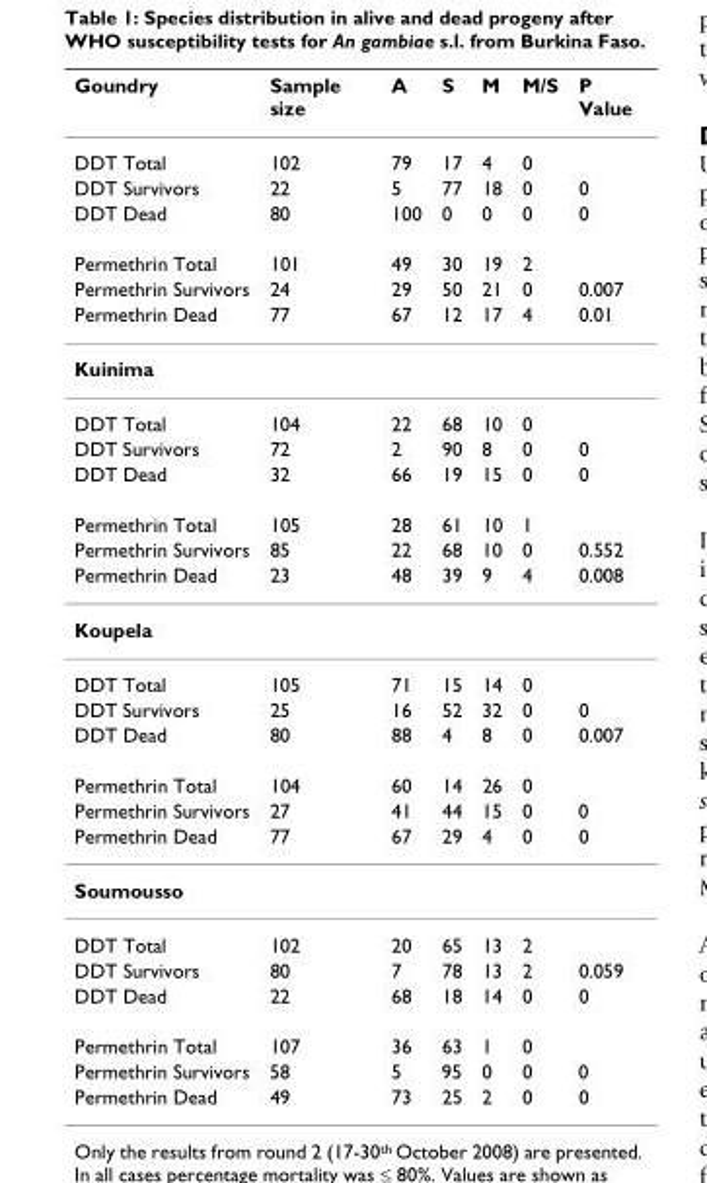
<table><thead><tr><td>Goundry</td><td>Sample size</td><td>A</td><td>S</td><td>M</td><td>M/S</td><td>P Value</td></tr></thead><tbody><tr><td>DDT Total</td><td>102</td><td>79</td><td>17</td><td>4</td><td>0</td><td></td></tr><tr><td>DDT Survivors</td><td>22</td><td>5</td><td>77</td><td>18</td><td>0</td><td>0</td></tr><tr><td>DDT Dead</td><td>80</td><td>100</td><td>0</td><td>0</td><td>0</td><td>0</td></tr><tr><td>Permethrin Total</td><td>101</td><td>49</td><td>30</td><td>19</td><td>2</td><td></td></tr><tr><td>Permethrin Survivors</td><td>24</td><td>29</td><td>50</td><td>21</td><td>0</td><td>0.007</td></tr><tr><td>Permethrin Dead</td><td>77</td><td>67</td><td>12</td><td>17</td><td>4</td><td>0.01</td></tr><tr><td colspan="7">Kuinima</td></tr><tr><td>DDT Total</td><td>104</td><td>22</td><td>68</td><td>10</td><td>0</td><td></td></tr><tr><td>DDT Survivors</td><td>72</td><td>2</td><td>90</td><td>8</td><td>0</td><td>0</td></tr><tr><td>DDT Dead</td><td>32</td><td>66</td><td>19</td><td>15</td><td>0</td><td>0</td></tr><tr><td>Permethrin Total</td><td>105</td><td>28</td><td>61</td><td>10</td><td>1</td><td></td></tr><tr><td>Permethrin Survivors</td><td>85</td><td>22</td><td>68</td><td>10</td><td>0</td><td>0.552</td></tr><tr><td>Permethrin Dead</td><td>23</td><td>48</td><td>39</td><td>9</td><td>4</td><td>0.008</td></tr><tr><td colspan="7">Koupela</td></tr><tr><td>DDT Total</td><td>105</td><td>71</td><td>15</td><td>14</td><td>0</td><td></td></tr><tr><td>DDT Survivors</td><td>25</td><td>16</td><td>52</td><td>32</td><td>0</td><td>0</td></tr><tr><td>DDT Dead</td><td>80</td><td>88</td><td>4</td><td>8</td><td>0</td><td>0.007</td></tr><tr><td>Permethrin Total</td><td>104</td><td>60</td><td>14</td><td>26</td><td>0</td><td></td></tr><tr><td>Permethrin Survivors</td><td>27</td><td>41</td><td>44</td><td>15</td><td>0</td><td>0</td></tr><tr><td>Permethrin Dead</td><td>77</td><td>67</td><td>29</td><td>4</td><td>0</td><td>0</td></tr><tr><td colspan="7">Soumousso</td></tr><tr><td>DDT Total</td><td>102</td><td>20</td><td>65</td><td>13</td><td>2</td><td></td></tr><tr><td>DDT Survivors</td><td>80</td><td>7</td><td>78</td><td>13</td><td>2</td><td>0.059</td></tr><tr><td>DDT Dead</td><td>22</td><td>68</td><td>18</td><td>14</td><td>0</td><td>0</td></tr><tr><td>Permethrin Total</td><td>107</td><td>36</td><td>63</td><td>1</td><td>0</td><td></td></tr><tr><td>Permethrin Survivors</td><td>58</td><td>5</td><td>95</td><td>0</td><td>0</td><td>0</td></tr><tr><td>Permethrin Dead</td><td>49</td><td>73</td><td>25</td><td>2</td><td>0</td><td>0</td></tr></tbody></table>